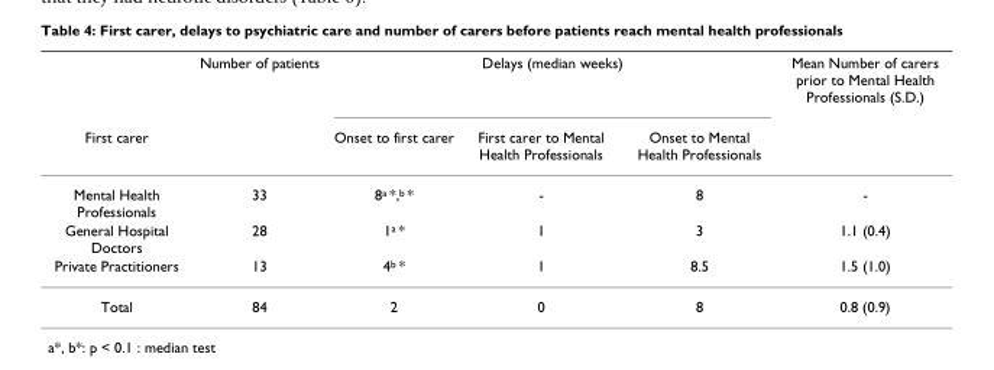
<table><thead><tr><td rowspan="2">First carer</td><td rowspan="2">Number of patients</td><td colspan="3">Delays (median weeks)</td><td rowspan="2">Mean Number of carers prior to Mental Health Professionals (S.D.)</td></tr><tr><td>Onset to first carer</td><td>First carer to Mental Health Professionals</td><td>Onset to Mental Health Professionals</td></tr></thead><tbody><tr><td>Mental Health Professionals</td><td>33</td><td>8<sup>a</sup> *,<sup>b</sup> *</td><td>-</td><td>8</td><td>-</td></tr><tr><td>General Hospital Doctors</td><td>28</td><td>1<sup>a</sup> *</td><td>1</td><td>3</td><td>1.1 (0.4)</td></tr><tr><td>Private Practitioners</td><td>13</td><td>4<sup>b</sup> *</td><td>1</td><td>8.5</td><td>1.5 (1.0)</td></tr><tr><td>Total</td><td>84</td><td>2</td><td>0</td><td>8</td><td>0.8 (0.9)</td></tr></tbody></table>